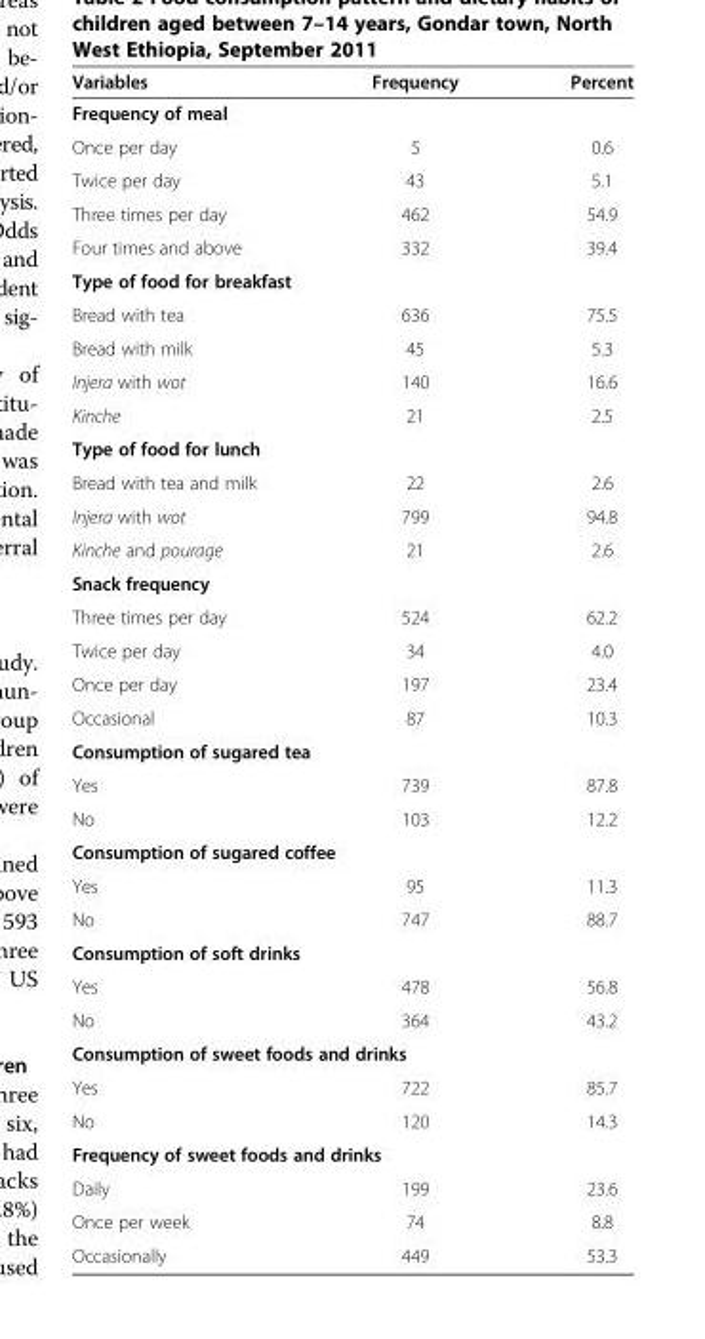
<table><thead><tr><td>Variables</td><td>Frequency</td><td>Percent</td></tr></thead><tbody><tr><td colspan="3">Frequency of meal</td></tr><tr><td>Once per day</td><td>5</td><td>0.6</td></tr><tr><td>Twice per day</td><td>43</td><td>5.1</td></tr><tr><td>Three times per day</td><td>462</td><td>54.9</td></tr><tr><td>Four times and above</td><td>332</td><td>39.4</td></tr><tr><td colspan="3">Type of food for breakfast</td></tr><tr><td>Bread with tea</td><td>636</td><td>75.5</td></tr><tr><td>Bread with milk</td><td>45</td><td>5.3</td></tr><tr><td>Injera with wot</td><td>140</td><td>16.6</td></tr><tr><td>Kinche</td><td>21</td><td>2.5</td></tr><tr><td colspan="3">Type of food for lunch</td></tr><tr><td>Bread with tea and milk</td><td>22</td><td>2.6</td></tr><tr><td>Injera with wot</td><td>799</td><td>94.8</td></tr><tr><td>Kinche and pourage</td><td>21</td><td>2.6</td></tr><tr><td colspan="3">Snack frequency</td></tr><tr><td>Three times per day</td><td>524</td><td>62.2</td></tr><tr><td>Twice per day</td><td>34</td><td>4.0</td></tr><tr><td>Once per day</td><td>197</td><td>23.4</td></tr><tr><td>Occasional</td><td>87</td><td>10.3</td></tr><tr><td colspan="3">Consumption of sugared tea</td></tr><tr><td>Yes</td><td>739</td><td>87.8</td></tr><tr><td>No</td><td>103</td><td>12.2</td></tr><tr><td colspan="3">Consumption of sugared coffee</td></tr><tr><td>Yes</td><td>95</td><td>11.3</td></tr><tr><td>No</td><td>747</td><td>88.7</td></tr><tr><td colspan="3">Consumption of soft drinks</td></tr><tr><td>Yes</td><td>478</td><td>56.8</td></tr><tr><td>No</td><td>364</td><td>43.2</td></tr><tr><td colspan="3">Consumption of sweet foods and drinks</td></tr><tr><td>Yes</td><td>722</td><td>85.7</td></tr><tr><td>No</td><td>120</td><td>14.3</td></tr><tr><td colspan="3">Frequency of sweet foods and drinks</td></tr><tr><td>Daily</td><td>199</td><td>23.6</td></tr><tr><td>Once per week</td><td>74</td><td>8.8</td></tr><tr><td>Occasionally</td><td>449</td><td>53.3</td></tr></tbody></table>